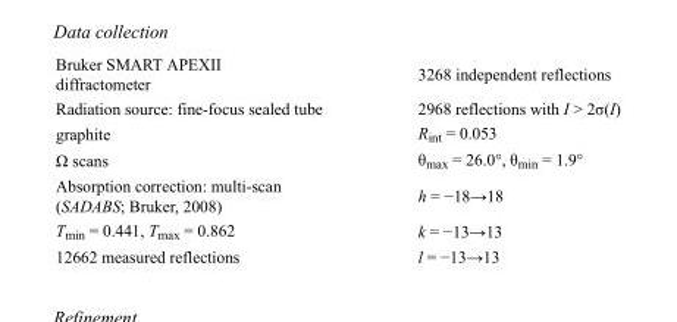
<table><tbody><tr><td>Bruker SMART APEXII diffractometer</td><td>3268 independent reflections</td></tr><tr><td>Radiation source: fine-focus sealed tube</td><td>2968 reflections with I &gt; 2σ(I)</td></tr><tr><td>graphite</td><td>R<sub>int</sub> = 0.053</td></tr><tr><td>Ω scans</td><td>θ<sub>max</sub> = 26.0°, θ<sub>min</sub> = 1.9°</td></tr><tr><td>Absorption correction: multi-scan (SADABS; Bruker, 2008)</td><td>h = −18→18</td></tr><tr><td>T<sub>min</sub> = 0.441, T<sub>max</sub> = 0.862</td><td>k = −13→13</td></tr><tr><td>12662 measured reflections</td><td>l = −13→13</td></tr></tbody></table>